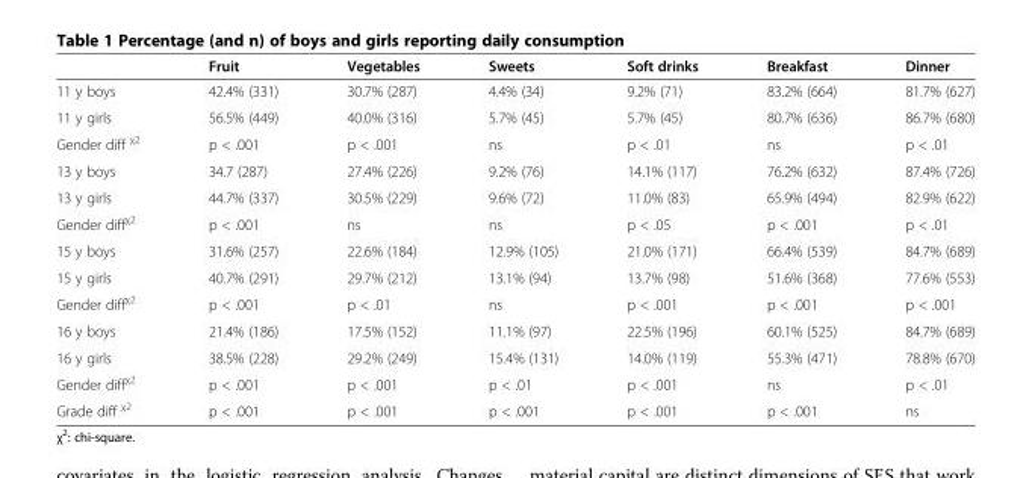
<table><thead><tr><td></td><td>Fruit</td><td>Vegetables</td><td>Sweets</td><td>Soft drinks</td><td>Breakfast</td><td>Dinner</td></tr></thead><tbody><tr><td>11 y boys</td><td>42.4% (331)</td><td>30.7% (287)</td><td>4.4% (34)</td><td>9.2% (71)</td><td>83.2% (664)</td><td>81.7% (627)</td></tr><tr><td>11 y girls</td><td>56.5% (449)</td><td>40.0% (316)</td><td>5.7% (45)</td><td>5.7% (45)</td><td>80.7% (636)</td><td>86.7% (680)</td></tr><tr><td>Gender diff <sup>χ2</sup></td><td>p &lt; .001</td><td>p &lt; .001</td><td>ns</td><td>p &lt; .01</td><td>ns</td><td>p &lt; .01</td></tr><tr><td>13 y boys</td><td>34.7 (287)</td><td>27.4% (226)</td><td>9.2% (76)</td><td>14.1% (117)</td><td>76.2% (632)</td><td>87.4% (726)</td></tr><tr><td>13 y girls</td><td>44.7% (337)</td><td>30.5% (229)</td><td>9.6% (72)</td><td>11.0% (83)</td><td>65.9% (494)</td><td>82.9% (622)</td></tr><tr><td>Gender diff<sup>χ2</sup></td><td>p &lt; .001</td><td>ns</td><td>ns</td><td>p &lt; .05</td><td>p &lt; .001</td><td>p &lt; .01</td></tr><tr><td>15 y boys</td><td>31.6% (257)</td><td>22.6% (184)</td><td>12.9% (105)</td><td>21.0% (171)</td><td>66.4% (539)</td><td>84.7% (689)</td></tr><tr><td>15 y girls</td><td>40.7% (291)</td><td>29.7% (212)</td><td>13.1% (94)</td><td>13.7% (98)</td><td>51.6% (368)</td><td>77.6% (553)</td></tr><tr><td>Gender diff<sup>χ2</sup></td><td>p &lt; .001</td><td>p &lt; .01</td><td>ns</td><td>p &lt; .001</td><td>p &lt; .001</td><td>p &lt; .001</td></tr><tr><td>16 y boys</td><td>21.4% (186)</td><td>17.5% (152)</td><td>11.1% (97)</td><td>22.5% (196)</td><td>60.1% (525)</td><td>84.7% (689)</td></tr><tr><td>16 y girls</td><td>38.5% (228)</td><td>29.2% (249)</td><td>15.4% (131)</td><td>14.0% (119)</td><td>55.3% (471)</td><td>78.8% (670)</td></tr><tr><td>Gender diff<sup>χ2</sup></td><td>p &lt; .001</td><td>p &lt; .001</td><td>p &lt; .01</td><td>p &lt; .001</td><td>ns</td><td>p &lt; .01</td></tr><tr><td>Grade diff <sup>χ2</sup></td><td>p &lt; .001</td><td>p &lt; .001</td><td>p &lt; .001</td><td>p &lt; .001</td><td>p &lt; .001</td><td>ns</td></tr></tbody></table>